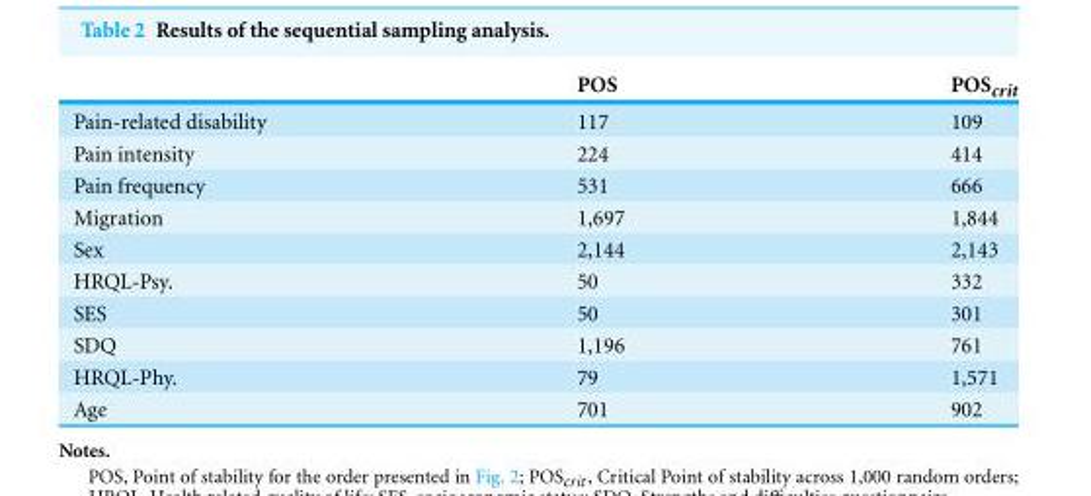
<table><thead><tr><td></td><td>POS</td><td>POS<sub>crit</sub></td></tr></thead><tbody><tr><td>Pain-related disability</td><td>117</td><td>109</td></tr><tr><td>Pain intensity</td><td>224</td><td>414</td></tr><tr><td>Pain frequency</td><td>531</td><td>666</td></tr><tr><td>Migration</td><td>1,697</td><td>1,844</td></tr><tr><td>Sex</td><td>2,144</td><td>2,143</td></tr><tr><td>HRQL-Psy.</td><td>50</td><td>332</td></tr><tr><td>SES</td><td>50</td><td>301</td></tr><tr><td>SDQ</td><td>1,196</td><td>761</td></tr><tr><td>HRQL-Phy.</td><td>79</td><td>1,571</td></tr><tr><td>Age</td><td>701</td><td>902</td></tr></tbody></table>